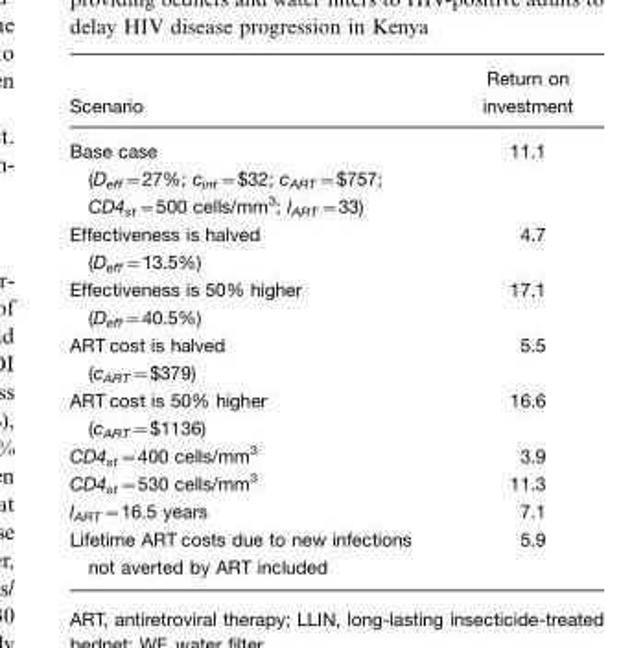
<table><thead><tr><td>Scenario</td><td>Return on investment</td></tr></thead><tbody><tr><td>Base case (D<sub>eff</sub>=27%; c<sub>int</sub>=$32; c<sub>ART</sub>=$757; CD4<sub>st</sub>=500 cells/mm<sup>3</sup>; l<sub>ART</sub>=33)</td><td>11.1</td></tr><tr><td>Effectiveness is halved (D<sub>eff</sub>=13.5%)</td><td>4.7</td></tr><tr><td>Effectiveness is 50% higher (D<sub>eff</sub>=40.5%)</td><td>17.1</td></tr><tr><td>ART cost is halved (c<sub>ART</sub>=$379)</td><td>5.5</td></tr><tr><td>ART cost is 50% higher (c<sub>ART</sub>=$1136)</td><td>16.6</td></tr><tr><td>CD4<sub>st</sub>=400 cells/mm<sup>3</sup></td><td>3.9</td></tr><tr><td>CD4<sub>st</sub>=530 cells/mm<sup>3</sup></td><td>11.3</td></tr><tr><td>l<sub>ART</sub>=16.5 years</td><td>7.1</td></tr><tr><td>Lifetime ART costs due to new infections not averted by ART included</td><td>5.9</td></tr></tbody></table>